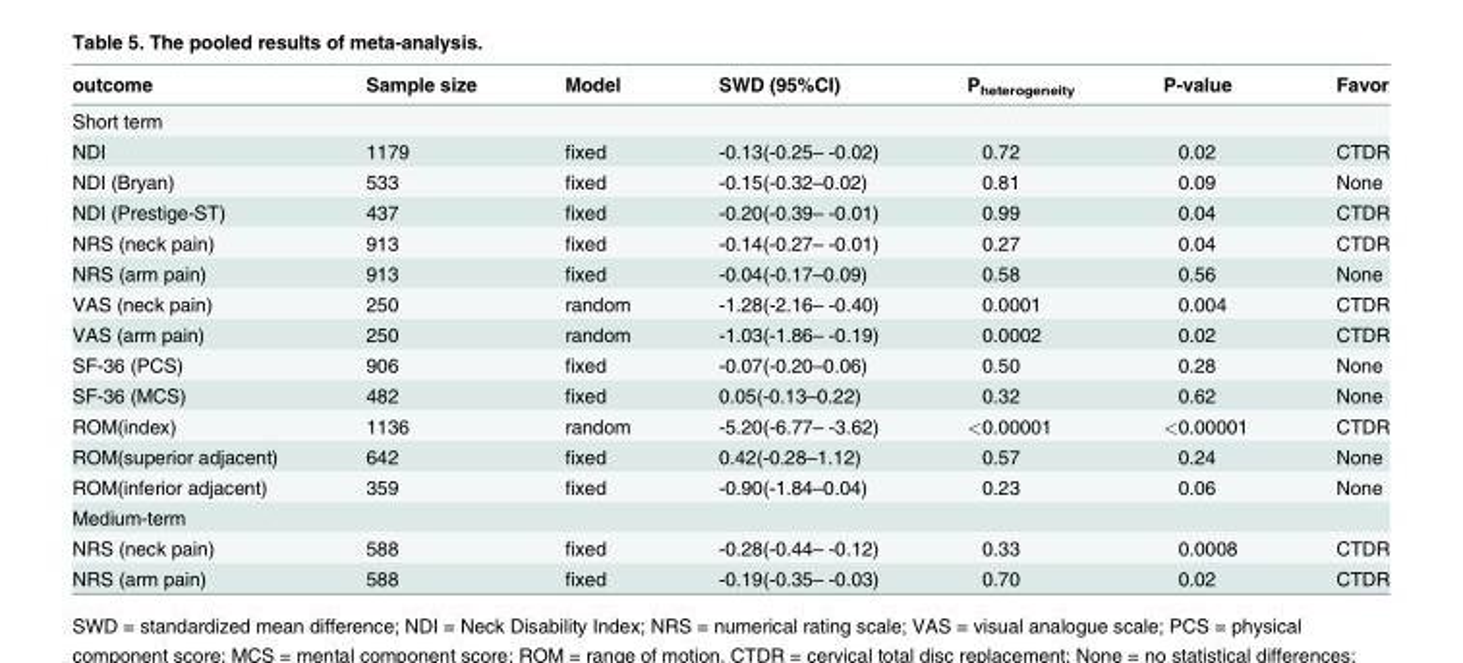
<table><thead><tr><td>outcome</td><td>Sample size</td><td>Model</td><td>SWD (95%CI)</td><td>P<sub>heterogeneity</sub></td><td>P-value</td><td>Favor</td></tr></thead><tbody><tr><td colspan="7">Short term</td></tr><tr><td>NDI</td><td>1179</td><td>fixed</td><td>-0.13(-0.25– -0.02)</td><td>0.72</td><td>0.02</td><td>CTDR</td></tr><tr><td>NDI (Bryan)</td><td>533</td><td>fixed</td><td>-0.15(-0.32–0.02)</td><td>0.81</td><td>0.09</td><td>None</td></tr><tr><td>NDI (Prestige-ST)</td><td>437</td><td>fixed</td><td>-0.20(-0.39– -0.01)</td><td>0.99</td><td>0.04</td><td>CTDR</td></tr><tr><td>NRS (neck pain)</td><td>913</td><td>fixed</td><td>-0.14(-0.27– -0.01)</td><td>0.27</td><td>0.04</td><td>CTDR</td></tr><tr><td>NRS (arm pain)</td><td>913</td><td>fixed</td><td>-0.04(-0.17–0.09)</td><td>0.58</td><td>0.56</td><td>None</td></tr><tr><td>VAS (neck pain)</td><td>250</td><td>random</td><td>-1.28(-2.16– -0.40)</td><td>0.0001</td><td>0.004</td><td>CTDR</td></tr><tr><td>VAS (arm pain)</td><td>250</td><td>random</td><td>-1.03(-1.86– -0.19)</td><td>0.0002</td><td>0.02</td><td>CTDR</td></tr><tr><td>SF-36 (PCS)</td><td>906</td><td>fixed</td><td>-0.07(-0.20–0.06)</td><td>0.50</td><td>0.28</td><td>None</td></tr><tr><td>SF-36 (MCS)</td><td>482</td><td>fixed</td><td>0.05(-0.13–0.22)</td><td>0.32</td><td>0.62</td><td>None</td></tr><tr><td>ROM(index)</td><td>1136</td><td>random</td><td>-5.20(-6.77– -3.62)</td><td>&lt;0.00001</td><td>&lt;0.00001</td><td>CTDR</td></tr><tr><td>ROM(superior adjacent)</td><td>642</td><td>fixed</td><td>0.42(-0.28–1.12)</td><td>0.57</td><td>0.24</td><td>None</td></tr><tr><td>ROM(inferior adjacent)</td><td>359</td><td>fixed</td><td>-0.90(-1.84–0.04)</td><td>0.23</td><td>0.06</td><td>None</td></tr><tr><td colspan="7">Medium-term</td></tr><tr><td>NRS (neck pain)</td><td>588</td><td>fixed</td><td>-0.28(-0.44– -0.12)</td><td>0.33</td><td>0.0008</td><td>CTDR</td></tr><tr><td>NRS (arm pain)</td><td>588</td><td>fixed</td><td>-0.19(-0.35– -0.03)</td><td>0.70</td><td>0.02</td><td>CTDR</td></tr></tbody></table>